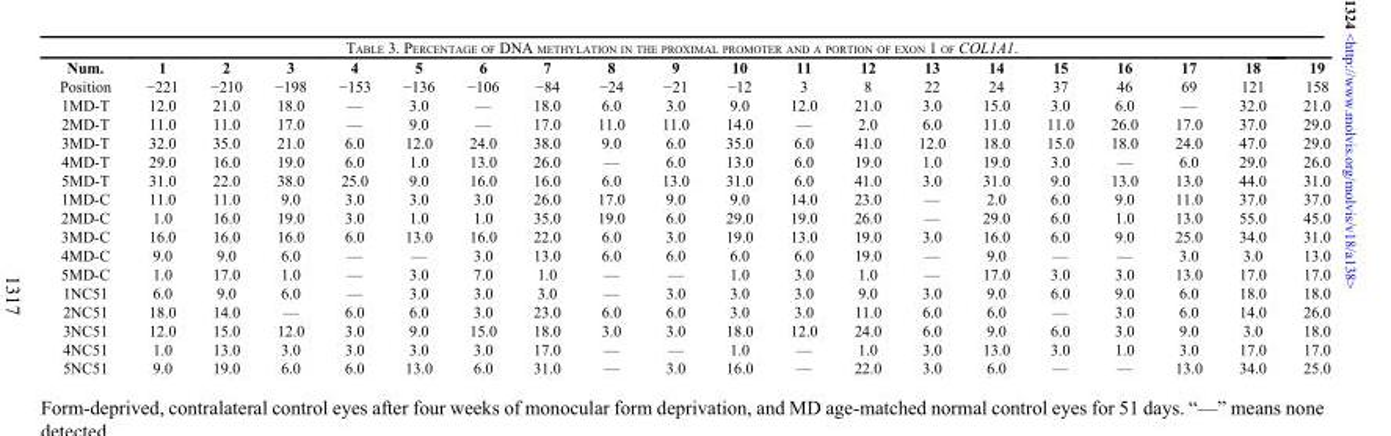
<table><thead><tr><td>Num.</td><td>1</td><td>2</td><td>3</td><td>4</td><td>5</td><td>6</td><td>7</td><td>8</td><td>9</td><td>10</td><td>11</td><td>12</td><td>13</td><td>14</td><td>15</td><td>16</td><td>17</td><td>18</td><td>19</td></tr></thead><tbody><tr><td>Position</td><td>−221</td><td>−210</td><td>−198</td><td>−153</td><td>−136</td><td>−106</td><td>−84</td><td>−24</td><td>−21</td><td>−12</td><td>3</td><td>8</td><td>22</td><td>24</td><td>37</td><td>46</td><td>69</td><td>121</td><td>158</td></tr><tr><td>1MD-T</td><td>12.0</td><td>21.0</td><td>18.0</td><td>—</td><td>3.0</td><td>—</td><td>18.0</td><td>6.0</td><td>3.0</td><td>9.0</td><td>12.0</td><td>21.0</td><td>3.0</td><td>15.0</td><td>3.0</td><td>6.0</td><td>—</td><td>32.0</td><td>21.0</td></tr><tr><td>2MD-T</td><td>11.0</td><td>11.0</td><td>17.0</td><td>—</td><td>9.0</td><td>—</td><td>17.0</td><td>11.0</td><td>11.0</td><td>14.0</td><td>—</td><td>2.0</td><td>6.0</td><td>11.0</td><td>11.0</td><td>26.0</td><td>17.0</td><td>37.0</td><td>29.0</td></tr><tr><td>3MD-T</td><td>32.0</td><td>35.0</td><td>21.0</td><td>6.0</td><td>12.0</td><td>24.0</td><td>38.0</td><td>9.0</td><td>6.0</td><td>35.0</td><td>6.0</td><td>41.0</td><td>12.0</td><td>18.0</td><td>15.0</td><td>18.0</td><td>24.0</td><td>47.0</td><td>29.0</td></tr><tr><td>4MD-T</td><td>29.0</td><td>16.0</td><td>19.0</td><td>6.0</td><td>1.0</td><td>13.0</td><td>26.0</td><td>—</td><td>6.0</td><td>13.0</td><td>6.0</td><td>19.0</td><td>1.0</td><td>19.0</td><td>3.0</td><td>—</td><td>6.0</td><td>29.0</td><td>26.0</td></tr><tr><td>5MD-T</td><td>31.0</td><td>22.0</td><td>38.0</td><td>25.0</td><td>9.0</td><td>16.0</td><td>16.0</td><td>6.0</td><td>13.0</td><td>31.0</td><td>6.0</td><td>41.0</td><td>3.0</td><td>31.0</td><td>9.0</td><td>13.0</td><td>13.0</td><td>44.0</td><td>31.0</td></tr><tr><td>1MD-C</td><td>11.0</td><td>11.0</td><td>9.0</td><td>3.0</td><td>3.0</td><td>3.0</td><td>26.0</td><td>17.0</td><td>9.0</td><td>9.0</td><td>14.0</td><td>23.0</td><td>—</td><td>2.0</td><td>6.0</td><td>9.0</td><td>11.0</td><td>37.0</td><td>37.0</td></tr><tr><td>2MD-C</td><td>1.0</td><td>16.0</td><td>19.0</td><td>3.0</td><td>1.0</td><td>1.0</td><td>35.0</td><td>19.0</td><td>6.0</td><td>29.0</td><td>19.0</td><td>26.0</td><td>—</td><td>29.0</td><td>6.0</td><td>1.0</td><td>13.0</td><td>55.0</td><td>45.0</td></tr><tr><td>3MD-C</td><td>16.0</td><td>16.0</td><td>16.0</td><td>6.0</td><td>13.0</td><td>16.0</td><td>22.0</td><td>6.0</td><td>3.0</td><td>19.0</td><td>13.0</td><td>19.0</td><td>3.0</td><td>16.0</td><td>6.0</td><td>9.0</td><td>25.0</td><td>34.0</td><td>31.0</td></tr><tr><td>4MD-C</td><td>9.0</td><td>9.0</td><td>6.0</td><td>—</td><td>—</td><td>3.0</td><td>13.0</td><td>6.0</td><td>6.0</td><td>6.0</td><td>6.0</td><td>19.0</td><td>—</td><td>9.0</td><td>—</td><td>—</td><td>3.0</td><td>3.0</td><td>13.0</td></tr><tr><td>5MD-C</td><td>1.0</td><td>17.0</td><td>1.0</td><td>—</td><td>3.0</td><td>7.0</td><td>1.0</td><td>—</td><td>—</td><td>1.0</td><td>3.0</td><td>1.0</td><td>—</td><td>17.0</td><td>3.0</td><td>3.0</td><td>13.0</td><td>17.0</td><td>17.0</td></tr><tr><td>1NC51</td><td>6.0</td><td>9.0</td><td>6.0</td><td>—</td><td>3.0</td><td>3.0</td><td>3.0</td><td>—</td><td>3.0</td><td>3.0</td><td>3.0</td><td>9.0</td><td>3.0</td><td>9.0</td><td>6.0</td><td>9.0</td><td>6.0</td><td>18.0</td><td>18.0</td></tr><tr><td>2NC51</td><td>18.0</td><td>14.0</td><td>—</td><td>6.0</td><td>6.0</td><td>3.0</td><td>23.0</td><td>6.0</td><td>6.0</td><td>3.0</td><td>3.0</td><td>11.0</td><td>6.0</td><td>6.0</td><td>—</td><td>3.0</td><td>6.0</td><td>14.0</td><td>26.0</td></tr><tr><td>3NC51</td><td>12.0</td><td>15.0</td><td>12.0</td><td>3.0</td><td>9.0</td><td>15.0</td><td>18.0</td><td>3.0</td><td>3.0</td><td>18.0</td><td>12.0</td><td>24.0</td><td>6.0</td><td>9.0</td><td>6.0</td><td>3.0</td><td>9.0</td><td>3.0</td><td>18.0</td></tr><tr><td>4NC51</td><td>1.0</td><td>13.0</td><td>3.0</td><td>3.0</td><td>3.0</td><td>3.0</td><td>17.0</td><td>—</td><td>—</td><td>1.0</td><td>—</td><td>1.0</td><td>3.0</td><td>13.0</td><td>3.0</td><td>1.0</td><td>3.0</td><td>17.0</td><td>17.0</td></tr><tr><td>5NC51</td><td>9.0</td><td>19.0</td><td>6.0</td><td>6.0</td><td>13.0</td><td>6.0</td><td>31.0</td><td>—</td><td>3.0</td><td>16.0</td><td>—</td><td>22.0</td><td>3.0</td><td>6.0</td><td>—</td><td>—</td><td>13.0</td><td>34.0</td><td>25.0</td></tr></tbody></table>